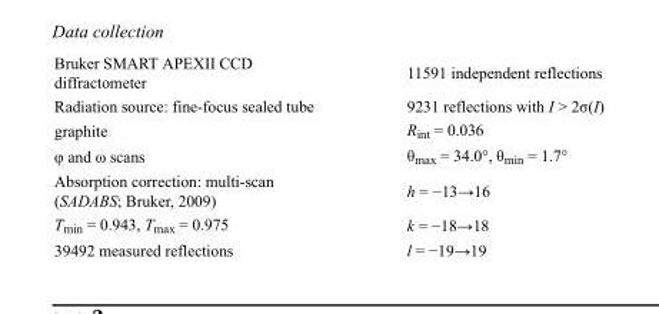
<table><tbody><tr><td>Bruker SMART APEXII CCD diffractometer</td><td>11591 independent reflections</td></tr><tr><td>Radiation source: fine-focus sealed tube</td><td>9231 reflections with I &gt; 2σ(I)</td></tr><tr><td>graphite</td><td>R<sub>int</sub> = 0.036</td></tr><tr><td>φ and ω scans</td><td>θ<sub>max</sub> = 34.0°, θ<sub>min</sub> = 1.7°</td></tr><tr><td>Absorption correction: multi-scan (SADABS; Bruker, 2009)</td><td>h = −13→16</td></tr><tr><td>T<sub>min</sub> = 0.943, T<sub>max</sub> = 0.975</td><td>k = −18→18</td></tr><tr><td>39492 measured reflections</td><td>l = −19→19</td></tr></tbody></table>